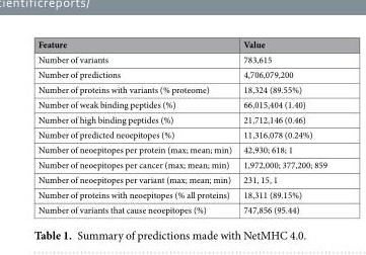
<table><thead><tr><td>Feature</td><td>Value</td></tr></thead><tbody><tr><td>Number of variants</td><td>783,615</td></tr><tr><td>Number of predictions</td><td>4,706,079,200</td></tr><tr><td>Number of proteins with variants (% proteome)</td><td>18,324 (89.55%)</td></tr><tr><td>Number of weak binding peptides (%)</td><td>66,015,404 (1.40)</td></tr><tr><td>Number of high binding peptides (%)</td><td>21,712,146 (0.46)</td></tr><tr><td>Number of predicted neoepitopes (%)</td><td>11,316,078 (0.24%)</td></tr><tr><td>Number of neoepitopes per protein (max; mean; min)</td><td>42,930; 618; 1</td></tr><tr><td>Number of neoepitopes per cancer (max; mean; min)</td><td>1,972,000; 377,200; 859</td></tr><tr><td>Number of neoepitopes per variant (max; mean; min)</td><td>231, 15, 1</td></tr><tr><td>Number of proteins with neoepitopes (% all proteins)</td><td>18,311 (89.15%)</td></tr><tr><td>Number of variants that cause neoepitopes (%)</td><td>747,856 (95.44)</td></tr></tbody></table>